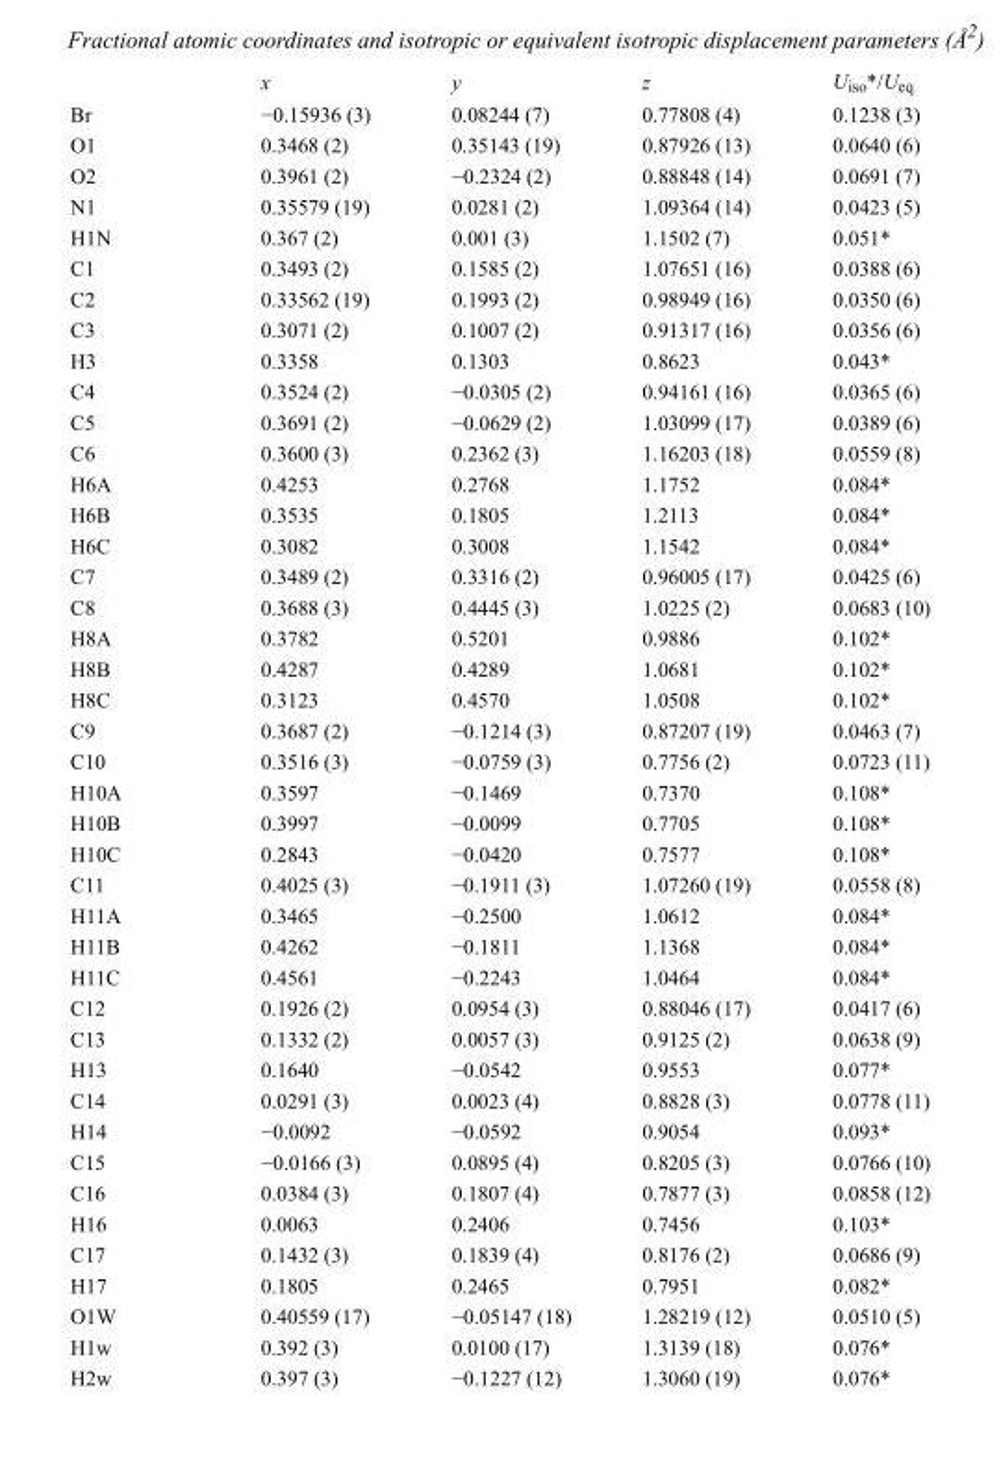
<table><thead><tr><td></td><td>x</td><td>y</td><td>z</td><td>U<sub>iso</sub>*/U<sub>eq</sub></td></tr></thead><tbody><tr><td>Br</td><td>−0.15936 (3)</td><td>0.08244 (7)</td><td>0.77808 (4)</td><td>0.1238 (3)</td></tr><tr><td>O1</td><td>0.3468 (2)</td><td>0.35143 (19)</td><td>0.87926 (13)</td><td>0.0640 (6)</td></tr><tr><td>O2</td><td>0.3961 (2)</td><td>−0.2324 (2)</td><td>0.88848 (14)</td><td>0.0691 (7)</td></tr><tr><td>N1</td><td>0.35579 (19)</td><td>0.0281 (2)</td><td>1.09364 (14)</td><td>0.0423 (5)</td></tr><tr><td>H1N</td><td>0.367 (2)</td><td>0.001 (3)</td><td>1.1502 (7)</td><td>0.051*</td></tr><tr><td>C1</td><td>0.3493 (2)</td><td>0.1585 (2)</td><td>1.07651 (16)</td><td>0.0388 (6)</td></tr><tr><td>C2</td><td>0.33562 (19)</td><td>0.1993 (2)</td><td>0.98949 (16)</td><td>0.0350 (6)</td></tr><tr><td>C3</td><td>0.3071 (2)</td><td>0.1007 (2)</td><td>0.91317 (16)</td><td>0.0356 (6)</td></tr><tr><td>H3</td><td>0.3358</td><td>0.1303</td><td>0.8623</td><td>0.043*</td></tr><tr><td>C4</td><td>0.3524 (2)</td><td>−0.0305 (2)</td><td>0.94161 (16)</td><td>0.0365 (6)</td></tr><tr><td>C5</td><td>0.3691 (2)</td><td>−0.0629 (2)</td><td>1.03099 (17)</td><td>0.0389 (6)</td></tr><tr><td>C6</td><td>0.3600 (3)</td><td>0.2362 (3)</td><td>1.16203 (18)</td><td>0.0559 (8)</td></tr><tr><td>H6A</td><td>0.4253</td><td>0.2768</td><td>1.1752</td><td>0.084*</td></tr><tr><td>H6B</td><td>0.3535</td><td>0.1805</td><td>1.2113</td><td>0.084*</td></tr><tr><td>H6C</td><td>0.3082</td><td>0.3008</td><td>1.1542</td><td>0.084*</td></tr><tr><td>C7</td><td>0.3489 (2)</td><td>0.3316 (2)</td><td>0.96005 (17)</td><td>0.0425 (6)</td></tr><tr><td>C8</td><td>0.3688 (3)</td><td>0.4445 (3)</td><td>1.0225 (2)</td><td>0.0683 (10)</td></tr><tr><td>H8A</td><td>0.3782</td><td>0.5201</td><td>0.9886</td><td>0.102*</td></tr><tr><td>H8B</td><td>0.4287</td><td>0.4289</td><td>1.0681</td><td>0.102*</td></tr><tr><td>H8C</td><td>0.3123</td><td>0.4570</td><td>1.0508</td><td>0.102*</td></tr><tr><td>C9</td><td>0.3687 (2)</td><td>−0.1214 (3)</td><td>0.87207 (19)</td><td>0.0463 (7)</td></tr><tr><td>C10</td><td>0.3516 (3)</td><td>−0.0759 (3)</td><td>0.7756 (2)</td><td>0.0723 (11)</td></tr><tr><td>H10A</td><td>0.3597</td><td>−0.1469</td><td>0.7370</td><td>0.108*</td></tr><tr><td>H10B</td><td>0.3997</td><td>−0.0099</td><td>0.7705</td><td>0.108*</td></tr><tr><td>H10C</td><td>0.2843</td><td>−0.0420</td><td>0.7577</td><td>0.108*</td></tr><tr><td>C11</td><td>0.4025 (3)</td><td>−0.1911 (3)</td><td>1.07260 (19)</td><td>0.0558 (8)</td></tr><tr><td>H11A</td><td>0.3465</td><td>−0.2500</td><td>1.0612</td><td>0.084*</td></tr><tr><td>H11B</td><td>0.4262</td><td>−0.1811</td><td>1.1368</td><td>0.084*</td></tr><tr><td>H11C</td><td>0.4561</td><td>−0.2243</td><td>1.0464</td><td>0.084*</td></tr><tr><td>C12</td><td>0.1926 (2)</td><td>0.0954 (3)</td><td>0.88046 (17)</td><td>0.0417 (6)</td></tr><tr><td>C13</td><td>0.1332 (2)</td><td>0.0057 (3)</td><td>0.9125 (2)</td><td>0.0638 (9)</td></tr><tr><td>H13</td><td>0.1640</td><td>−0.0542</td><td>0.9553</td><td>0.077*</td></tr><tr><td>C14</td><td>0.0291 (3)</td><td>0.0023 (4)</td><td>0.8828 (3)</td><td>0.0778 (11)</td></tr><tr><td>H14</td><td>−0.0092</td><td>−0.0592</td><td>0.9054</td><td>0.093*</td></tr><tr><td>C15</td><td>−0.0166 (3)</td><td>0.0895 (4)</td><td>0.8205 (3)</td><td>0.0766 (10)</td></tr><tr><td>C16</td><td>0.0384 (3)</td><td>0.1807 (4)</td><td>0.7877 (3)</td><td>0.0858 (12)</td></tr><tr><td>H16</td><td>0.0063</td><td>0.2406</td><td>0.7456</td><td>0.103*</td></tr><tr><td>C17</td><td>0.1432 (3)</td><td>0.1839 (4)</td><td>0.8176 (2)</td><td>0.0686 (9)</td></tr><tr><td>H17</td><td>0.1805</td><td>0.2465</td><td>0.7951</td><td>0.082*</td></tr><tr><td>O1W</td><td>0.40559 (17)</td><td>−0.05147 (18)</td><td>1.28219 (12)</td><td>0.0510 (5)</td></tr><tr><td>H1w</td><td>0.392 (3)</td><td>0.0100 (17)</td><td>1.3139 (18)</td><td>0.076*</td></tr><tr><td>H2w</td><td>0.397 (3)</td><td>−0.1227 (12)</td><td>1.3060 (19)</td><td>0.076*</td></tr></tbody></table>